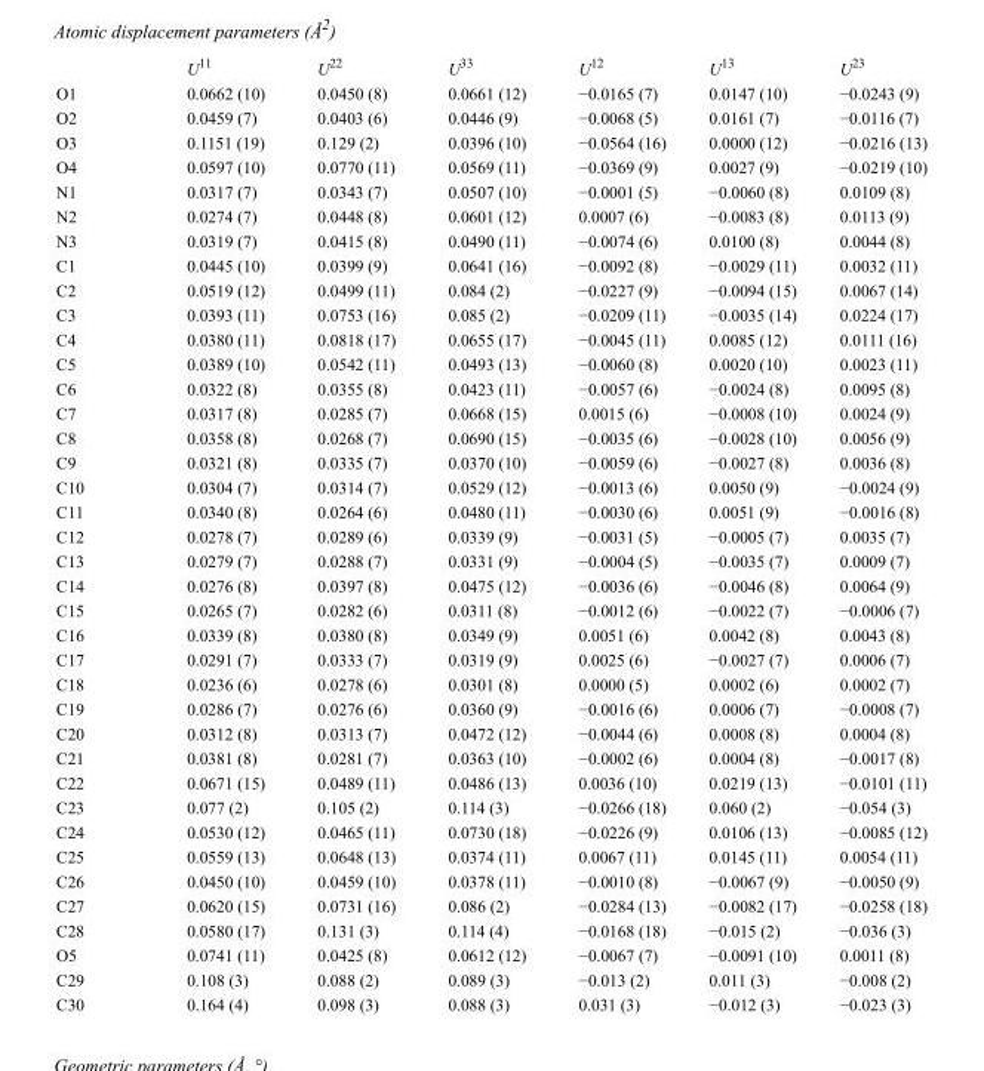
<table><thead><tr><td></td><td>U<sup>11</sup></td><td>U<sup>22</sup></td><td>U<sup>33</sup></td><td>U<sup>12</sup></td><td>U<sup>13</sup></td><td>U<sup>23</sup></td></tr></thead><tbody><tr><td>O1</td><td>0.0662 (10)</td><td>0.0450 (8)</td><td>0.0661 (12)</td><td>−0.0165 (7)</td><td>0.0147 (10)</td><td>−0.0243 (9)</td></tr><tr><td>O2</td><td>0.0459 (7)</td><td>0.0403 (6)</td><td>0.0446 (9)</td><td>−0.0068 (5)</td><td>0.0161 (7)</td><td>−0.0116 (7)</td></tr><tr><td>O3</td><td>0.1151 (19)</td><td>0.129 (2)</td><td>0.0396 (10)</td><td>−0.0564 (16)</td><td>0.0000 (12)</td><td>−0.0216 (13)</td></tr><tr><td>O4</td><td>0.0597 (10)</td><td>0.0770 (11)</td><td>0.0569 (11)</td><td>−0.0369 (9)</td><td>0.0027 (9)</td><td>−0.0219 (10)</td></tr><tr><td>N1</td><td>0.0317 (7)</td><td>0.0343 (7)</td><td>0.0507 (10)</td><td>−0.0001 (5)</td><td>−0.0060 (8)</td><td>0.0109 (8)</td></tr><tr><td>N2</td><td>0.0274 (7)</td><td>0.0448 (8)</td><td>0.0601 (12)</td><td>0.0007 (6)</td><td>−0.0083 (8)</td><td>0.0113 (9)</td></tr><tr><td>N3</td><td>0.0319 (7)</td><td>0.0415 (8)</td><td>0.0490 (11)</td><td>−0.0074 (6)</td><td>0.0100 (8)</td><td>0.0044 (8)</td></tr><tr><td>C1</td><td>0.0445 (10)</td><td>0.0399 (9)</td><td>0.0641 (16)</td><td>−0.0092 (8)</td><td>−0.0029 (11)</td><td>0.0032 (11)</td></tr><tr><td>C2</td><td>0.0519 (12)</td><td>0.0499 (11)</td><td>0.084 (2)</td><td>−0.0227 (9)</td><td>−0.0094 (15)</td><td>0.0067 (14)</td></tr><tr><td>C3</td><td>0.0393 (11)</td><td>0.0753 (16)</td><td>0.085 (2)</td><td>−0.0209 (11)</td><td>−0.0035 (14)</td><td>0.0224 (17)</td></tr><tr><td>C4</td><td>0.0380 (11)</td><td>0.0818 (17)</td><td>0.0655 (17)</td><td>−0.0045 (11)</td><td>0.0085 (12)</td><td>0.0111 (16)</td></tr><tr><td>C5</td><td>0.0389 (10)</td><td>0.0542 (11)</td><td>0.0493 (13)</td><td>−0.0060 (8)</td><td>0.0020 (10)</td><td>0.0023 (11)</td></tr><tr><td>C6</td><td>0.0322 (8)</td><td>0.0355 (8)</td><td>0.0423 (11)</td><td>−0.0057 (6)</td><td>−0.0024 (8)</td><td>0.0095 (8)</td></tr><tr><td>C7</td><td>0.0317 (8)</td><td>0.0285 (7)</td><td>0.0668 (15)</td><td>0.0015 (6)</td><td>−0.0008 (10)</td><td>0.0024 (9)</td></tr><tr><td>C8</td><td>0.0358 (8)</td><td>0.0268 (7)</td><td>0.0690 (15)</td><td>−0.0035 (6)</td><td>−0.0028 (10)</td><td>0.0056 (9)</td></tr><tr><td>C9</td><td>0.0321 (8)</td><td>0.0335 (7)</td><td>0.0370 (10)</td><td>−0.0059 (6)</td><td>−0.0027 (8)</td><td>0.0036 (8)</td></tr><tr><td>C10</td><td>0.0304 (7)</td><td>0.0314 (7)</td><td>0.0529 (12)</td><td>−0.0013 (6)</td><td>0.0050 (9)</td><td>−0.0024 (9)</td></tr><tr><td>C11</td><td>0.0340 (8)</td><td>0.0264 (6)</td><td>0.0480 (11)</td><td>−0.0030 (6)</td><td>0.0051 (9)</td><td>−0.0016 (8)</td></tr><tr><td>C12</td><td>0.0278 (7)</td><td>0.0289 (6)</td><td>0.0339 (9)</td><td>−0.0031 (5)</td><td>−0.0005 (7)</td><td>0.0035 (7)</td></tr><tr><td>C13</td><td>0.0279 (7)</td><td>0.0288 (7)</td><td>0.0331 (9)</td><td>−0.0004 (5)</td><td>−0.0035 (7)</td><td>0.0009 (7)</td></tr><tr><td>C14</td><td>0.0276 (8)</td><td>0.0397 (8)</td><td>0.0475 (12)</td><td>−0.0036 (6)</td><td>−0.0046 (8)</td><td>0.0064 (9)</td></tr><tr><td>C15</td><td>0.0265 (7)</td><td>0.0282 (6)</td><td>0.0311 (8)</td><td>−0.0012 (6)</td><td>−0.0022 (7)</td><td>−0.0006 (7)</td></tr><tr><td>C16</td><td>0.0339 (8)</td><td>0.0380 (8)</td><td>0.0349 (9)</td><td>0.0051 (6)</td><td>0.0042 (8)</td><td>0.0043 (8)</td></tr><tr><td>C17</td><td>0.0291 (7)</td><td>0.0333 (7)</td><td>0.0319 (9)</td><td>0.0025 (6)</td><td>−0.0027 (7)</td><td>0.0006 (7)</td></tr><tr><td>C18</td><td>0.0236 (6)</td><td>0.0278 (6)</td><td>0.0301 (8)</td><td>0.0000 (5)</td><td>0.0002 (6)</td><td>0.0002 (7)</td></tr><tr><td>C19</td><td>0.0286 (7)</td><td>0.0276 (6)</td><td>0.0360 (9)</td><td>−0.0016 (6)</td><td>0.0006 (7)</td><td>−0.0008 (7)</td></tr><tr><td>C20</td><td>0.0312 (8)</td><td>0.0313 (7)</td><td>0.0472 (12)</td><td>−0.0044 (6)</td><td>0.0008 (8)</td><td>0.0004 (8)</td></tr><tr><td>C21</td><td>0.0381 (8)</td><td>0.0281 (7)</td><td>0.0363 (10)</td><td>−0.0002 (6)</td><td>0.0004 (8)</td><td>−0.0017 (8)</td></tr><tr><td>C22</td><td>0.0671 (15)</td><td>0.0489 (11)</td><td>0.0486 (13)</td><td>0.0036 (10)</td><td>0.0219 (13)</td><td>−0.0101 (11)</td></tr><tr><td>C23</td><td>0.077 (2)</td><td>0.105 (2)</td><td>0.114 (3)</td><td>−0.0266 (18)</td><td>0.060 (2)</td><td>−0.054 (3)</td></tr><tr><td>C24</td><td>0.0530 (12)</td><td>0.0465 (11)</td><td>0.0730 (18)</td><td>−0.0226 (9)</td><td>0.0106 (13)</td><td>−0.0085 (12)</td></tr><tr><td>C25</td><td>0.0559 (13)</td><td>0.0648 (13)</td><td>0.0374 (11)</td><td>0.0067 (11)</td><td>0.0145 (11)</td><td>0.0054 (11)</td></tr><tr><td>C26</td><td>0.0450 (10)</td><td>0.0459 (10)</td><td>0.0378 (11)</td><td>−0.0010 (8)</td><td>−0.0067 (9)</td><td>−0.0050 (9)</td></tr><tr><td>C27</td><td>0.0620 (15)</td><td>0.0731 (16)</td><td>0.086 (2)</td><td>−0.0284 (13)</td><td>−0.0082 (17)</td><td>−0.0258 (18)</td></tr><tr><td>C28</td><td>0.0580 (17)</td><td>0.131 (3)</td><td>0.114 (4)</td><td>−0.0168 (18)</td><td>−0.015 (2)</td><td>−0.036 (3)</td></tr><tr><td>O5</td><td>0.0741 (11)</td><td>0.0425 (8)</td><td>0.0612 (12)</td><td>−0.0067 (7)</td><td>−0.0091 (10)</td><td>0.0011 (8)</td></tr><tr><td>C29</td><td>0.108 (3)</td><td>0.088 (2)</td><td>0.089 (3)</td><td>−0.013 (2)</td><td>0.011 (3)</td><td>−0.008 (2)</td></tr><tr><td>C30</td><td>0.164 (4)</td><td>0.098 (3)</td><td>0.088 (3)</td><td>0.031 (3)</td><td>−0.012 (3)</td><td>−0.023 (3)</td></tr></tbody></table>